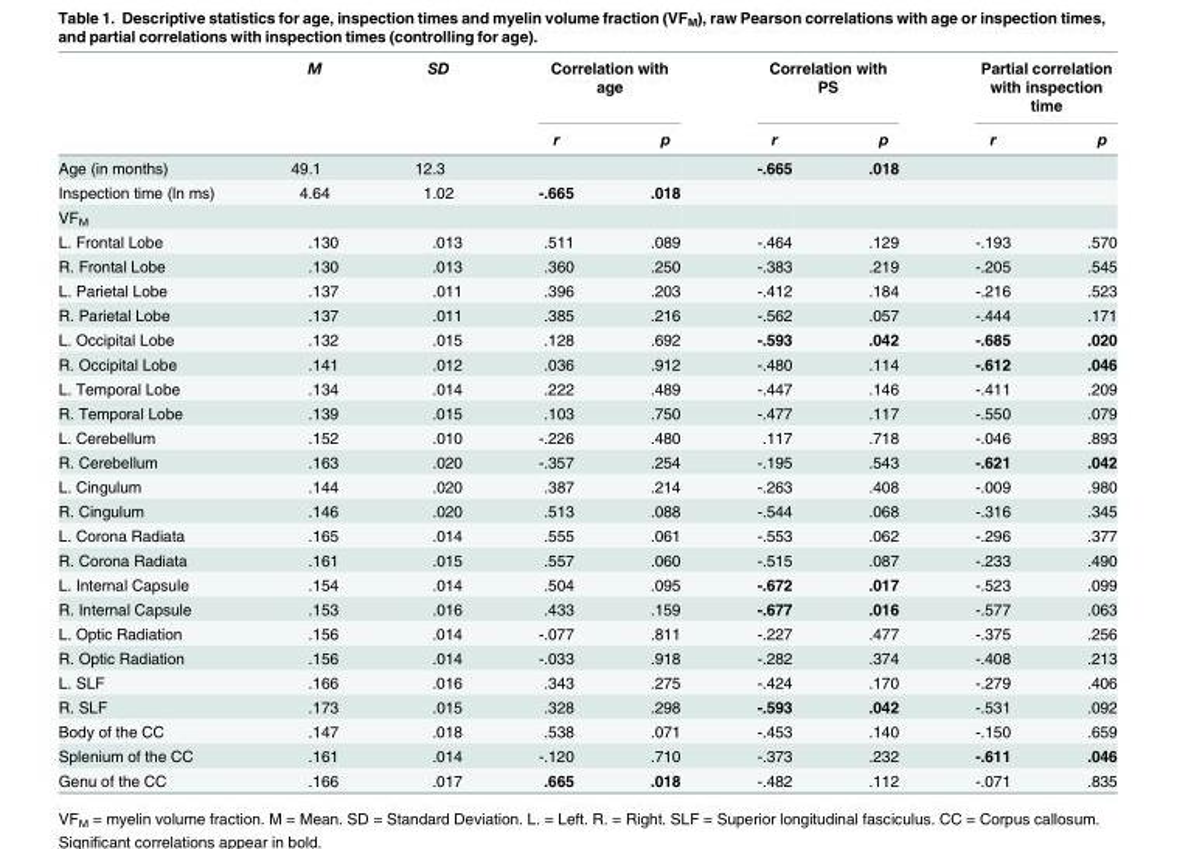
<table><thead><tr><td rowspan="2"></td><td rowspan="2">M</td><td rowspan="2">SD</td><td colspan="2">Correlation with age</td><td colspan="2">Correlation with PS</td><td colspan="2">Partial correlation with inspection time</td></tr><tr><td>r</td><td>p</td><td>r</td><td>p</td><td>r</td><td>p</td></tr></thead><tbody><tr><td>Age (in months)</td><td>49.1</td><td>12.3</td><td></td><td></td><td>-.665</td><td>.018</td><td></td><td></td></tr><tr><td>Inspection time (ln ms)</td><td>4.64</td><td>1.02</td><td>-.665</td><td>.018</td><td></td><td></td><td></td><td></td></tr><tr><td colspan="9">VF<sub>M</sub></td></tr><tr><td>L. Frontal Lobe</td><td>.130</td><td>.013</td><td>.511</td><td>.089</td><td>-.464</td><td>.129</td><td>-.193</td><td>.570</td></tr><tr><td>R. Frontal Lobe</td><td>.130</td><td>.013</td><td>.360</td><td>.250</td><td>-.383</td><td>.219</td><td>-.205</td><td>.545</td></tr><tr><td>L. Parietal Lobe</td><td>.137</td><td>.011</td><td>.396</td><td>.203</td><td>-.412</td><td>.184</td><td>-.216</td><td>.523</td></tr><tr><td>R. Parietal Lobe</td><td>.137</td><td>.011</td><td>.385</td><td>.216</td><td>-.562</td><td>.057</td><td>-.444</td><td>.171</td></tr><tr><td>L. Occipital Lobe</td><td>.132</td><td>.015</td><td>.128</td><td>.692</td><td>-.593</td><td>.042</td><td>-.685</td><td>.020</td></tr><tr><td>R. Occipital Lobe</td><td>.141</td><td>.012</td><td>.036</td><td>.912</td><td>-.480</td><td>.114</td><td>-.612</td><td>.046</td></tr><tr><td>L. Temporal Lobe</td><td>.134</td><td>.014</td><td>.222</td><td>.489</td><td>-.447</td><td>.146</td><td>-.411</td><td>.209</td></tr><tr><td>R. Temporal Lobe</td><td>.139</td><td>.015</td><td>.103</td><td>.750</td><td>-.477</td><td>.117</td><td>-.550</td><td>.079</td></tr><tr><td>L. Cerebellum</td><td>.152</td><td>.010</td><td>-.226</td><td>.480</td><td>.117</td><td>.718</td><td>-.046</td><td>.893</td></tr><tr><td>R. Cerebellum</td><td>.163</td><td>.020</td><td>-.357</td><td>.254</td><td>-.195</td><td>.543</td><td>-.621</td><td>.042</td></tr><tr><td>L. Cingulum</td><td>.144</td><td>.020</td><td>.387</td><td>.214</td><td>-.263</td><td>.408</td><td>-.009</td><td>.980</td></tr><tr><td>R. Cingulum</td><td>.146</td><td>.020</td><td>.513</td><td>.088</td><td>-.544</td><td>.068</td><td>-.316</td><td>.345</td></tr><tr><td>L. Corona Radiata</td><td>.165</td><td>.014</td><td>.555</td><td>.061</td><td>-.553</td><td>.062</td><td>-.296</td><td>.377</td></tr><tr><td>R. Corona Radiata</td><td>.161</td><td>.015</td><td>.557</td><td>.060</td><td>-.515</td><td>.087</td><td>-.233</td><td>.490</td></tr><tr><td>L. Internal Capsule</td><td>.154</td><td>.014</td><td>.504</td><td>.095</td><td>-.672</td><td>.017</td><td>-.523</td><td>.099</td></tr><tr><td>R. Internal Capsule</td><td>.153</td><td>.016</td><td>.433</td><td>.159</td><td>-.677</td><td>.016</td><td>-.577</td><td>.063</td></tr><tr><td>L. Optic Radiation</td><td>.156</td><td>.014</td><td>-.077</td><td>.811</td><td>-.227</td><td>.477</td><td>-.375</td><td>.256</td></tr><tr><td>R. Optic Radiation</td><td>.156</td><td>.014</td><td>-.033</td><td>.918</td><td>-.282</td><td>.374</td><td>-.408</td><td>.213</td></tr><tr><td>L. SLF</td><td>.166</td><td>.016</td><td>.343</td><td>.275</td><td>-.424</td><td>.170</td><td>-.279</td><td>.406</td></tr><tr><td>R. SLF</td><td>.173</td><td>.015</td><td>.328</td><td>.298</td><td>-.593</td><td>.042</td><td>-.531</td><td>.092</td></tr><tr><td>Body of the CC</td><td>.147</td><td>.018</td><td>.538</td><td>.071</td><td>-.453</td><td>.140</td><td>-.150</td><td>.659</td></tr><tr><td>Splenium of the CC</td><td>.161</td><td>.014</td><td>-.120</td><td>.710</td><td>-.373</td><td>.232</td><td>-.611</td><td>.046</td></tr><tr><td>Genu of the CC</td><td>.166</td><td>.017</td><td>.665</td><td>.018</td><td>-.482</td><td>.112</td><td>-.071</td><td>.835</td></tr></tbody></table>